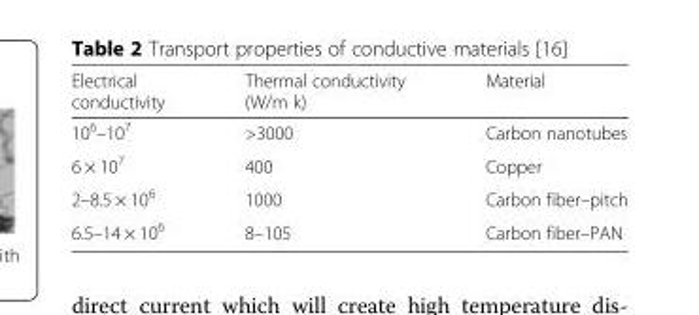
<table><thead><tr><td>Electrical conductivity</td><td>Thermal conductivity (W/m k)</td><td>Material</td></tr></thead><tbody><tr><td>10<sup>6</sup>–10<sup>7</sup></td><td>&gt;3000</td><td>Carbon nanotubes</td></tr><tr><td>6 × 10<sup>7</sup></td><td>400</td><td>Copper</td></tr><tr><td>2–8.5 × 10<sup>6</sup></td><td>1000</td><td>Carbon fiber–pitch</td></tr><tr><td>6.5–14 × 10<sup>6</sup></td><td>8–105</td><td>Carbon fiber–PAN</td></tr></tbody></table>